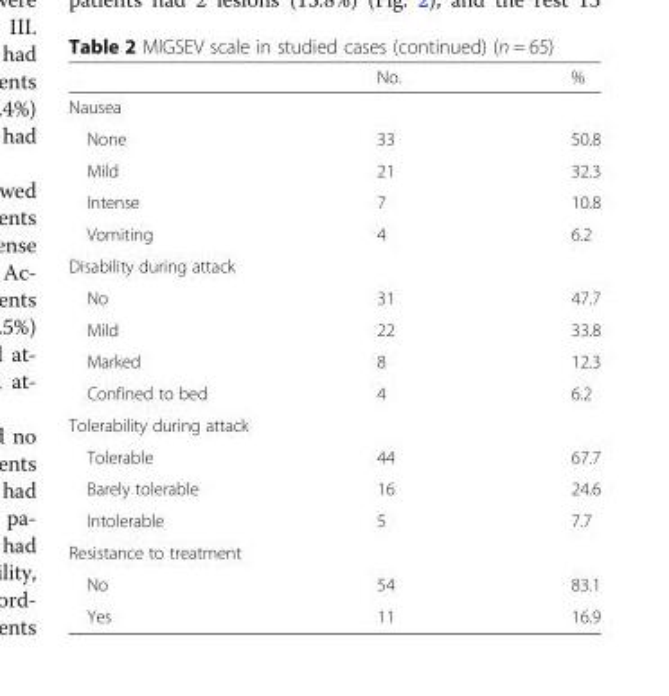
<table><thead><tr><td></td><td>No.</td><td>%</td></tr></thead><tbody><tr><td colspan="3">Nausea</td></tr><tr><td>None</td><td>33</td><td>50.8</td></tr><tr><td>Mild</td><td>21</td><td>32.3</td></tr><tr><td>Intense</td><td>7</td><td>10.8</td></tr><tr><td>Vomiting</td><td>4</td><td>6.2</td></tr><tr><td colspan="3">Disability during attack</td></tr><tr><td>No</td><td>31</td><td>47.7</td></tr><tr><td>Mild</td><td>22</td><td>33.8</td></tr><tr><td>Marked</td><td>8</td><td>12.3</td></tr><tr><td>Confined to bed</td><td>4</td><td>6.2</td></tr><tr><td colspan="3">Tolerability during attack</td></tr><tr><td>Tolerable</td><td>44</td><td>67.7</td></tr><tr><td>Barely tolerable</td><td>16</td><td>24.6</td></tr><tr><td>Intolerable</td><td>5</td><td>7.7</td></tr><tr><td colspan="3">Resistance to treatment</td></tr><tr><td>No</td><td>54</td><td>83.1</td></tr><tr><td>Yes</td><td>11</td><td>16.9</td></tr></tbody></table>